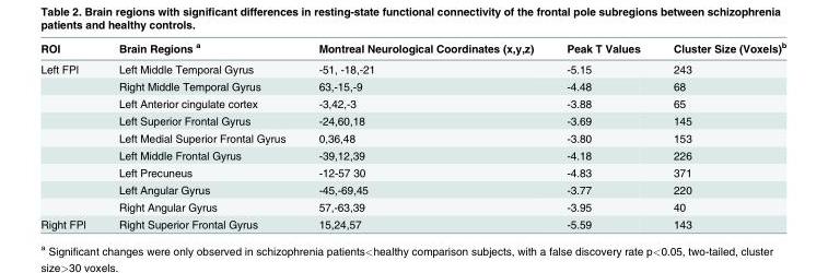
<table><thead><tr><td>ROI</td><td>Brain Regions <sup>a</sup></td><td>Montreal Neurological Coordinates (x,y,z)</td><td>Peak T Values</td><td>Cluster Size (Voxels)<sup>b</sup></td></tr></thead><tbody><tr><td rowspan="9">Left FPl</td><td>Left Middle Temporal Gyrus</td><td>-51, -18,-21</td><td>-5.15</td><td>243</td></tr><tr><td>Right Middle Temporal Gyrus</td><td>63,-15,-9</td><td>-4.48</td><td>68</td></tr><tr><td>Left Anterior cingulate cortex</td><td>-3,42,-3</td><td>-3.88</td><td>65</td></tr><tr><td>Left Superior Frontal Gyrus</td><td>-24,60,18</td><td>-3.69</td><td>145</td></tr><tr><td>Left Medial Superior Frontal Gyrus</td><td>0,36,48</td><td>-3.80</td><td>153</td></tr><tr><td>Left Middle Frontal Gyrus</td><td>-39,12,39</td><td>-4.18</td><td>226</td></tr><tr><td>Left Precuneus</td><td>-12-57 30</td><td>-4.83</td><td>371</td></tr><tr><td>Left Angular Gyrus</td><td>-45,-69,45</td><td>-3.77</td><td>220</td></tr><tr><td>Right Angular Gyrus</td><td>57,-63,39</td><td>-3.95</td><td>40</td></tr><tr><td>Right FPl</td><td>Right Superior Frontal Gyrus</td><td>15,24,57</td><td>-5.59</td><td>143</td></tr></tbody></table>